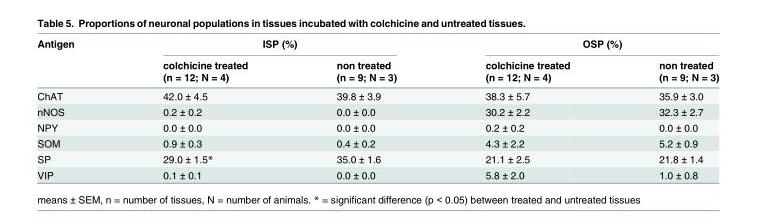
<table><thead><tr><td rowspan="3">Antigen</td><td colspan="2">ISP (%)</td><td colspan="2">OSP (%)</td></tr><tr><td rowspan="2">colchicine treated (n = 12; N = 4)</td><td rowspan="2">non treated (n = 9; N = 3)</td><td rowspan="2">colchicine treated (n = 12; N = 4)</td><td rowspan="2">non treated (n = 9; N = 3)</td></tr><tr></tr></thead><tbody><tr><td>ChAT</td><td>42.0 ± 4.5</td><td>39.8 ± 3.9</td><td>38.3 ± 5.7</td><td>35.9 ± 3.0</td></tr><tr><td>nNOS</td><td>0.2 ± 0.2</td><td>0.0 ± 0.0</td><td>30.2 ± 2.2</td><td>32.3 ± 2.7</td></tr><tr><td>NPY</td><td>0.0 ± 0.0</td><td>0.0 ± 0.0</td><td>0.2 ± 0.2</td><td>0.0 ± 0.0</td></tr><tr><td>SOM</td><td>0.9 ± 0.3</td><td>0.4 ± 0.2</td><td>4.3 ± 2.2</td><td>5.2 ± 0.9</td></tr><tr><td>SP</td><td>29.0 ± 1.5*</td><td>35.0 ± 1.6</td><td>21.1 ± 2.5</td><td>21.8 ± 1.4</td></tr><tr><td>VIP</td><td>0.1 ± 0.1</td><td>0.0 ± 0.0</td><td>5.8 ± 2.0</td><td>1.0 ± 0.8</td></tr></tbody></table>